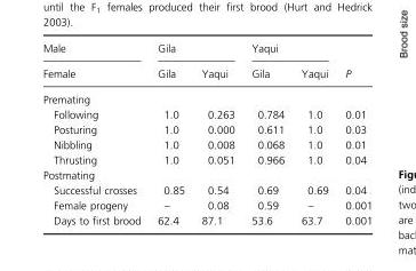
<table><thead><tr><td rowspan="2">Male Female</td><td colspan="2">Gila</td><td colspan="2">Yaqui</td><td rowspan="2">P</td></tr><tr><td>Gila</td><td>Yaqui</td><td>Gila</td><td>Yaqui</td></tr></thead><tbody><tr><td colspan="6">Premating</td></tr><tr><td>Following</td><td>1.0</td><td>0.263</td><td>0.784</td><td>1.0</td><td>0.01</td></tr><tr><td>Posturing</td><td>1.0</td><td>0.000</td><td>0.611</td><td>1.0</td><td>0.03</td></tr><tr><td>Nibbling</td><td>1.0</td><td>0.008</td><td>0.068</td><td>1.0</td><td>0.01</td></tr><tr><td>Thrusting</td><td>1.0</td><td>0.051</td><td>0.966</td><td>1.0</td><td>0.04</td></tr><tr><td colspan="6">Postmating</td></tr><tr><td>Successful crosses</td><td>0.85</td><td>0.54</td><td>0.69</td><td>0.69</td><td>0.04</td></tr><tr><td>Female progeny</td><td>–</td><td>0.08</td><td>0.59</td><td>–</td><td>0.001</td></tr><tr><td>Days to first brood</td><td>62.4</td><td>87.1</td><td>53.6</td><td>63.7</td><td>0.001</td></tr></tbody></table>